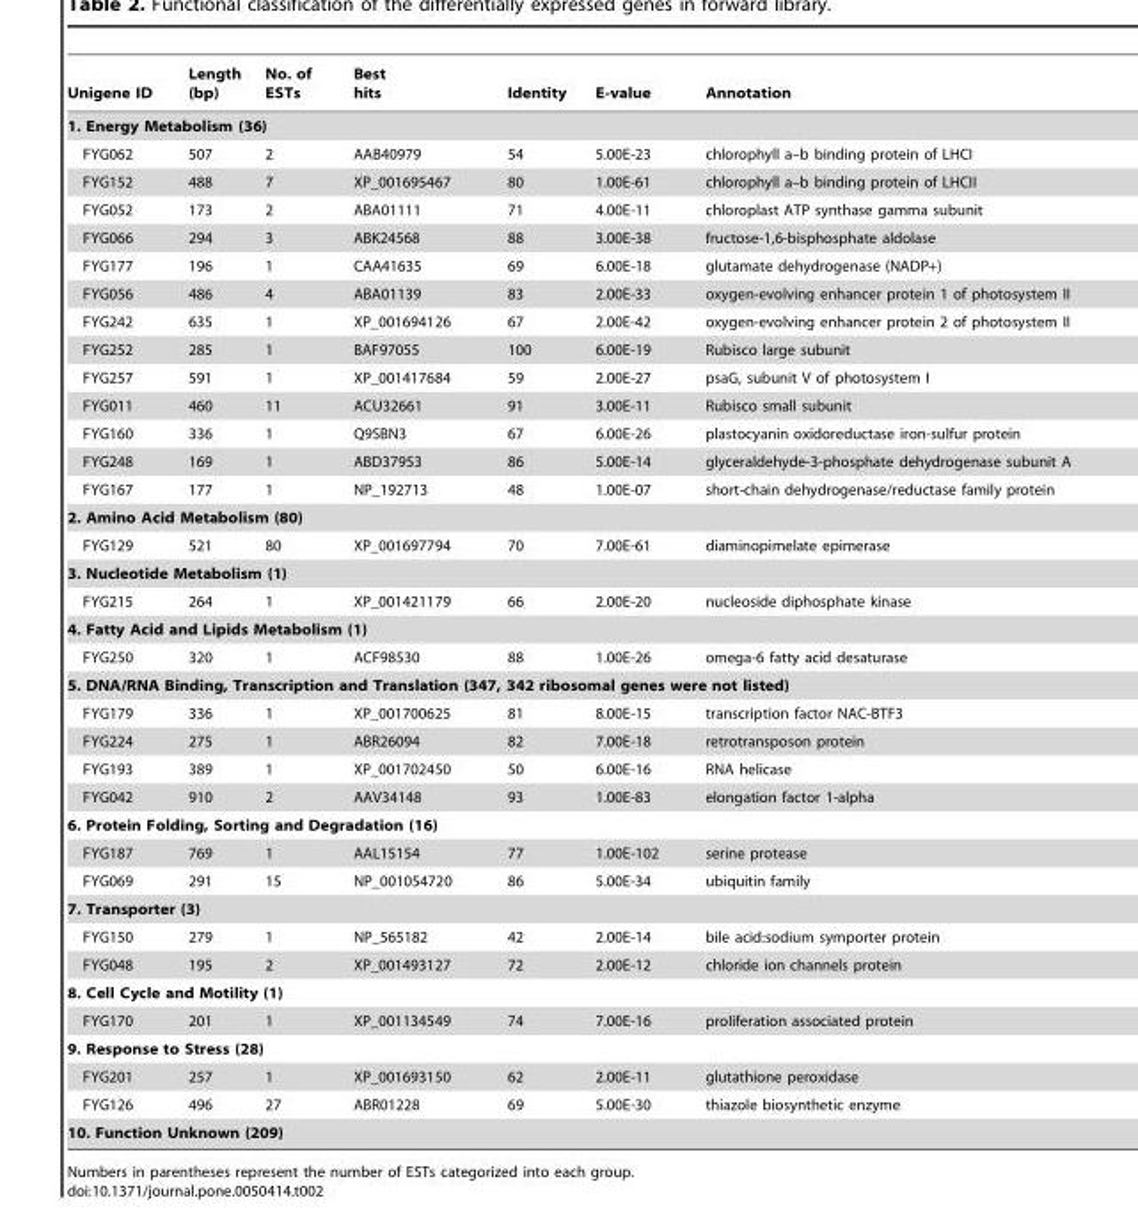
<table><thead><tr><td>Unigene ID</td><td>Length (bp)</td><td>No. of ESTs</td><td>Best hits</td><td>Identity</td><td>E-value</td><td>Annotation</td></tr></thead><tbody><tr><td colspan="7">1. Energy Metabolism (36)</td></tr><tr><td>FYG062</td><td>507</td><td>2</td><td>AAB40979</td><td>54</td><td>5.00E-23</td><td>chlorophyll a–b binding protein of LHCI</td></tr><tr><td>FYG152</td><td>488</td><td>7</td><td>XP_001695467</td><td>80</td><td>1.00E-61</td><td>chlorophyll a–b binding protein of LHCII</td></tr><tr><td>FYG052</td><td>173</td><td>2</td><td>ABA01111</td><td>71</td><td>4.00E-11</td><td>chloroplast ATP synthase gamma subunit</td></tr><tr><td>FYG066</td><td>294</td><td>3</td><td>ABK24568</td><td>88</td><td>3.00E-38</td><td>fructose-1,6-bisphosphate aldolase</td></tr><tr><td>FYG177</td><td>196</td><td>1</td><td>CAA41635</td><td>69</td><td>6.00E-18</td><td>glutamate dehydrogenase (NADP+)</td></tr><tr><td>FYG056</td><td>486</td><td>4</td><td>ABA01139</td><td>83</td><td>2.00E-33</td><td>oxygen-evolving enhancer protein 1 of photosystem II</td></tr><tr><td>FYG242</td><td>635</td><td>1</td><td>XP_001694126</td><td>67</td><td>2.00E-42</td><td>oxygen-evolving enhancer protein 2 of photosystem II</td></tr><tr><td>FYG252</td><td>285</td><td>1</td><td>BAF97055</td><td>100</td><td>6.00E-19</td><td>Rubisco large subunit</td></tr><tr><td>FYG257</td><td>591</td><td>1</td><td>XP_001417684</td><td>59</td><td>2.00E-27</td><td>psaG, subunit V of photosystem I</td></tr><tr><td>FYG011</td><td>460</td><td>11</td><td>ACU32661</td><td>91</td><td>3.00E-11</td><td>Rubisco small subunit</td></tr><tr><td>FYG160</td><td>336</td><td>1</td><td>Q9SBN3</td><td>67</td><td>6.00E-26</td><td>plastocyanin oxidoreductase iron-sulfur protein</td></tr><tr><td>FYG248</td><td>169</td><td>1</td><td>ABD37953</td><td>86</td><td>5.00E-14</td><td>glyceraldehyde-3-phosphate dehydrogenase subunit A</td></tr><tr><td>FYG167</td><td>177</td><td>1</td><td>NP_192713</td><td>48</td><td>1.00E-07</td><td>short-chain dehydrogenase/reductase family protein</td></tr><tr><td colspan="7">2. Amino Acid Metabolism (80)</td></tr><tr><td>FYG129</td><td>521</td><td>80</td><td>XP_001697794</td><td>70</td><td>7.00E-61</td><td>diaminopimelate epimerase</td></tr><tr><td colspan="7">3. Nucleotide Metabolism (1)</td></tr><tr><td>FYG215</td><td>264</td><td>1</td><td>XP_001421179</td><td>66</td><td>2.00E-20</td><td>nucleoside diphosphate kinase</td></tr><tr><td colspan="7">4. Fatty Acid and Lipids Metabolism (1)</td></tr><tr><td>FYG250</td><td>320</td><td>1</td><td>ACF98530</td><td>88</td><td>1.00E-26</td><td>omega-6 fatty acid desaturase</td></tr><tr><td colspan="7">5. DNA/RNA Binding, Transcription and Translation (347, 342 ribosomal genes were not listed)</td></tr><tr><td>FYG179</td><td>336</td><td>1</td><td>XP_001700625</td><td>81</td><td>8.00E-15</td><td>transcription factor NAC-BTF3</td></tr><tr><td>FYG224</td><td>275</td><td>1</td><td>ABR26094</td><td>82</td><td>7.00E-18</td><td>retrotransposon protein</td></tr><tr><td>FYG193</td><td>389</td><td>1</td><td>XP_001702450</td><td>50</td><td>6.00E-16</td><td>RNA helicase</td></tr><tr><td>FYG042</td><td>910</td><td>2</td><td>AAV34148</td><td>93</td><td>1.00E-83</td><td>elongation factor 1-alpha</td></tr><tr><td colspan="7">6. Protein Folding, Sorting and Degradation (16)</td></tr><tr><td>FYG187</td><td>769</td><td>1</td><td>AAL15154</td><td>77</td><td>1.00E-102</td><td>serine protease</td></tr><tr><td>FYG069</td><td>291</td><td>15</td><td>NP_001054720</td><td>86</td><td>5.00E-34</td><td>ubiquitin family</td></tr><tr><td colspan="7">7. Transporter (3)</td></tr><tr><td>FYG150</td><td>279</td><td>1</td><td>NP_565182</td><td>42</td><td>2.00E-14</td><td>bile acid:sodium symporter protein</td></tr><tr><td>FYG048</td><td>195</td><td>2</td><td>XP_001493127</td><td>72</td><td>2.00E-12</td><td>chloride ion channels protein</td></tr><tr><td colspan="7">8. Cell Cycle and Motility (1)</td></tr><tr><td>FYG170</td><td>201</td><td>1</td><td>XP_001134549</td><td>74</td><td>7.00E-16</td><td>proliferation associated protein</td></tr><tr><td colspan="7">9. Response to Stress (28)</td></tr><tr><td>FYG201</td><td>257</td><td>1</td><td>XP_001693150</td><td>62</td><td>2.00E-11</td><td>glutathione peroxidase</td></tr><tr><td>FYG126</td><td>496</td><td>27</td><td>ABR01228</td><td>69</td><td>5.00E-30</td><td>thiazole biosynthetic enzyme</td></tr><tr><td colspan="7">10. Function Unknown (209)</td></tr></tbody></table>